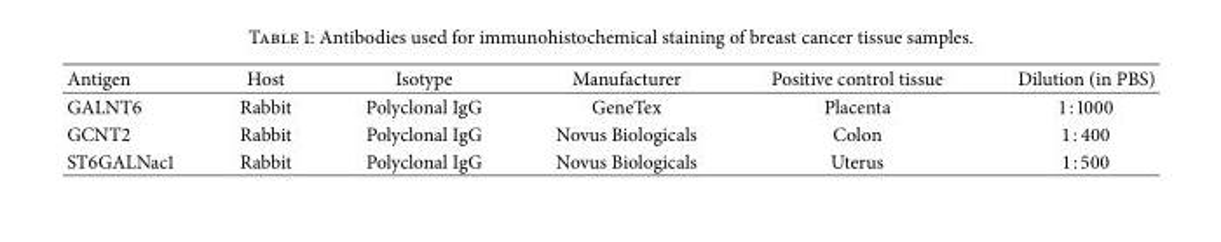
<table><thead><tr><td>Antigen</td><td>Host</td><td>Isotype</td><td>Manufacturer</td><td>Positive control tissue</td><td>Dilution (in PBS)</td></tr></thead><tbody><tr><td>GALNT6</td><td>Rabbit</td><td>Polyclonal IgG</td><td>GeneTex</td><td>Placenta</td><td>1 : 1000</td></tr><tr><td>GCNT2</td><td>Rabbit</td><td>Polyclonal IgG</td><td>Novus Biologicals</td><td>Colon</td><td>1 : 400</td></tr><tr><td>ST6GALNac1</td><td>Rabbit</td><td>Polyclonal IgG</td><td>Novus Biologicals</td><td>Uterus</td><td>1 : 500</td></tr></tbody></table>